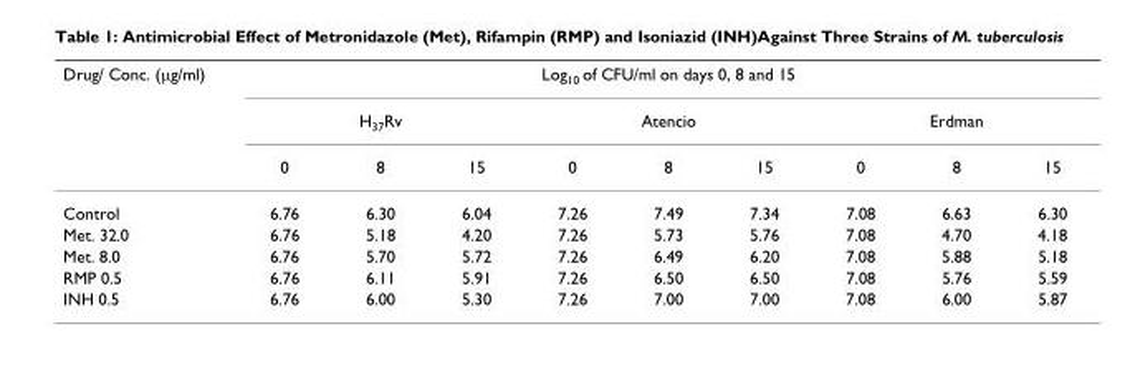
<table><thead><tr><td rowspan="3">Drug/ Conc. (µg/ml)</td><td colspan="9">Log<sub>10</sub> of CFU/ml on days 0, 8 and 15</td></tr><tr><td colspan="3">H<sub>37</sub>Rv</td><td colspan="3">Atencio</td><td colspan="3">Erdman</td></tr><tr><td>0</td><td>8</td><td>15</td><td>0</td><td>8</td><td>15</td><td>0</td><td>8</td><td>15</td></tr></thead><tbody><tr><td>Control</td><td>6.76</td><td>6.30</td><td>6.04</td><td>7.26</td><td>7.49</td><td>7.34</td><td>7.08</td><td>6.63</td><td>6.30</td></tr><tr><td>Met. 32.0</td><td>6.76</td><td>5.18</td><td>4.20</td><td>7.26</td><td>5.73</td><td>5.76</td><td>7.08</td><td>4.70</td><td>4.18</td></tr><tr><td>Met. 8.0</td><td>6.76</td><td>5.70</td><td>5.72</td><td>7.26</td><td>6.49</td><td>6.20</td><td>7.08</td><td>5.88</td><td>5.18</td></tr><tr><td>RMP 0.5</td><td>6.76</td><td>6.11</td><td>5.91</td><td>7.26</td><td>6.50</td><td>6.50</td><td>7.08</td><td>5.76</td><td>5.59</td></tr><tr><td>INH 0.5</td><td>6.76</td><td>6.00</td><td>5.30</td><td>7.26</td><td>7.00</td><td>7.00</td><td>7.08</td><td>6.00</td><td>5.87</td></tr></tbody></table>